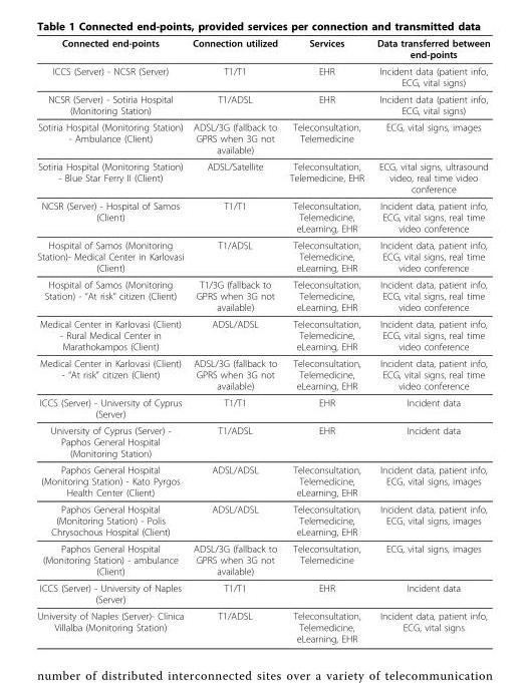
<table><thead><tr><td>Connected end-points</td><td>Connection utilized</td><td>Services</td><td>Data transferred between end-points</td></tr></thead><tbody><tr><td>ICCS (Server) - NCSR (Server)</td><td>T1/T1</td><td>EHR</td><td>Incident data (patient info, ECG, vital signs)</td></tr><tr><td>NCSR (Server) - Sotiria Hospital (Monitoring Station)</td><td>T1/ADSL</td><td>EHR</td><td>Incident data (patient info, ECG, vital signs)</td></tr><tr><td>Sotiria Hospital (Monitoring Station) - Ambulance (Client)</td><td>ADSL/3G (fallback to GPRS when 3G not available)</td><td>Teleconsultation, Telemedicine</td><td>ECG, vital signs, images</td></tr><tr><td>Sotiria Hospital (Monitoring Station) - Blue Star Ferry II (Client)</td><td>ADSL/Satellite</td><td>Teleconsultation, Telemedicine, EHR</td><td>ECG, vital signs, ultrasound video, real time video conference</td></tr><tr><td>NCSR (Server) - Hospital of Samos (Client)</td><td>T1/T1</td><td>Teleconsultation, Telemedicine, eLearning, EHR</td><td>Incident data, patient info, ECG, vital signs, real time video conference</td></tr><tr><td>Hospital of Samos (Monitoring Station)- Medical Center in Karlovasi (Client)</td><td>T1/ADSL</td><td>Teleconsultation, Telemedicine, eLearning, EHR</td><td>Incident data, patient info, ECG, vital signs, real time video conference</td></tr><tr><td>Hospital of Samos (Monitoring Station) - “At risk” citizen (Client)</td><td>T1/3G (fallback to GPRS when 3G not available)</td><td>Teleconsultation, Telemedicine, eLearning, EHR</td><td>Incident data, patient info, ECG, vital signs, real time video conference</td></tr><tr><td>Medical Center in Karlovasi (Client) - Rural Medical Center in Marathokampos (Client)</td><td>ADSL/ADSL</td><td>Teleconsultation, Telemedicine, eLearning, EHR</td><td>Incident data, patient info, ECG, vital signs, real time video conference</td></tr><tr><td>Medical Center in Karlovasi (Client) - “At risk” citizen (Client)</td><td>ADSL/3G (fallback to GPRS when 3G not available)</td><td>Teleconsultation, Telemedicine, eLearning, EHR</td><td>Incident data, patient info, ECG, vital signs, real time video conference</td></tr><tr><td>ICCS (Server) - University of Cyprus (Server)</td><td>T1/T1</td><td>EHR</td><td>Incident data</td></tr><tr><td>University of Cyprus (Server) - Paphos General Hospital (Monitoring Station)</td><td>T1/ADSL</td><td>EHR</td><td>Incident data</td></tr><tr><td>Paphos General Hospital (Monitoring Station) - Kato Pyrgos Health Center (Client)</td><td>ADSL/ADSL</td><td>Teleconsultation, Telemedicine, eLearning, EHR</td><td>Incident data, patient info, ECG, vital signs, images</td></tr><tr><td>Paphos General Hospital (Monitoring Station) - Polis Chrysochous Hospital (Client)</td><td>ADSL/ADSL</td><td>Teleconsultation, Telemedicine, eLearning, EHR</td><td>Incident data, patient info, ECG, vital signs, images</td></tr><tr><td>Paphos General Hospital (Monitoring Station) - ambulance (Client)</td><td>ADSL/3G (fallback to GPRS when 3G not available)</td><td>Teleconsultation, Telemedicine</td><td>ECG, vital signs, images</td></tr><tr><td>ICCS (Server) - University of Naples (Server)</td><td>T1/T1</td><td>EHR</td><td>Incident data</td></tr><tr><td>University of Naples (Server)- Clinica Villalba (Monitoring Station)</td><td>T1/ADSL</td><td>Teleconsultation, Telemedicine, eLearning, EHR</td><td>Incident data, patient info, ECG, vital signs</td></tr></tbody></table>